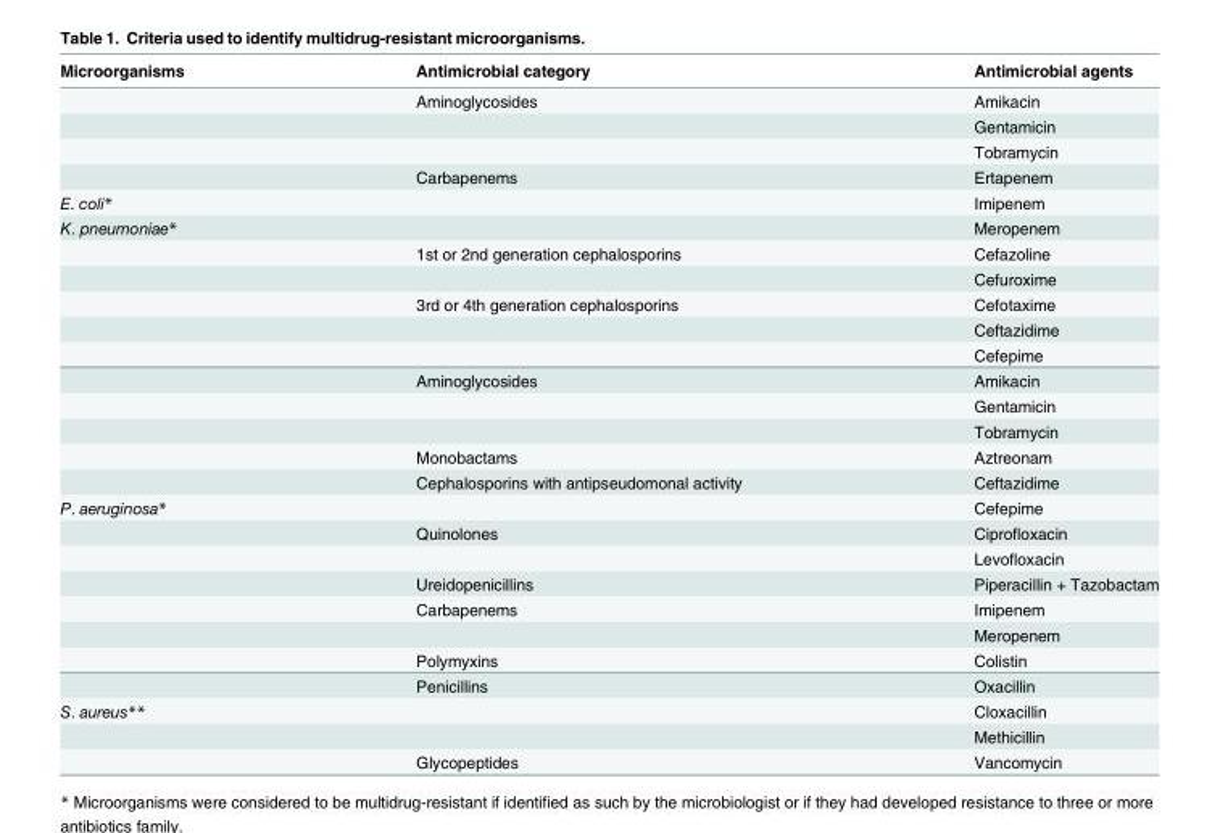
<table><thead><tr><td>Microorganisms</td><td>Antimicrobial category</td><td>Antimicrobial agents</td></tr></thead><tbody><tr><td></td><td>Aminoglycosides</td><td>Amikacin</td></tr><tr><td></td><td></td><td>Gentamicin</td></tr><tr><td></td><td></td><td>Tobramycin</td></tr><tr><td></td><td>Carbapenems</td><td>Ertapenem</td></tr><tr><td>E. coli*</td><td></td><td>Imipenem</td></tr><tr><td rowspan="11">K. pneumoniae*</td><td></td><td>Meropenem</td></tr><tr><td>1st or 2nd generation cephalosporins</td><td>Cefazoline</td></tr><tr><td></td><td>Cefuroxime</td></tr><tr><td>3rd or 4th generation cephalosporins</td><td>Cefotaxime</td></tr><tr><td></td><td>Ceftazidime</td></tr><tr><td></td><td>Cefepime</td></tr><tr><td>Aminoglycosides</td><td>Amikacin</td></tr><tr><td></td><td>Gentamicin</td></tr><tr><td></td><td>Tobramycin</td></tr><tr><td>Monobactams</td><td>Aztreonam</td></tr><tr><td>Cephalosporins with antipseudomonal activity</td><td>Ceftazidime</td></tr><tr><td rowspan="8">P. aeruginosa*</td><td></td><td>Cefepime</td></tr><tr><td>Quinolones</td><td>Ciprofloxacin</td></tr><tr><td></td><td>Levofloxacin</td></tr><tr><td>Ureidopenicillins</td><td>Piperacillin + Tazobactam</td></tr><tr><td>Carbapenems</td><td>Imipenem</td></tr><tr><td></td><td>Meropenem</td></tr><tr><td>Polymyxins</td><td>Colistin</td></tr><tr><td>Penicillins</td><td>Oxacillin</td></tr><tr><td rowspan="3">S. aureus**</td><td></td><td>Cloxacillin</td></tr><tr><td></td><td>Methicillin</td></tr><tr><td>Glycopeptides</td><td>Vancomycin</td></tr></tbody></table>